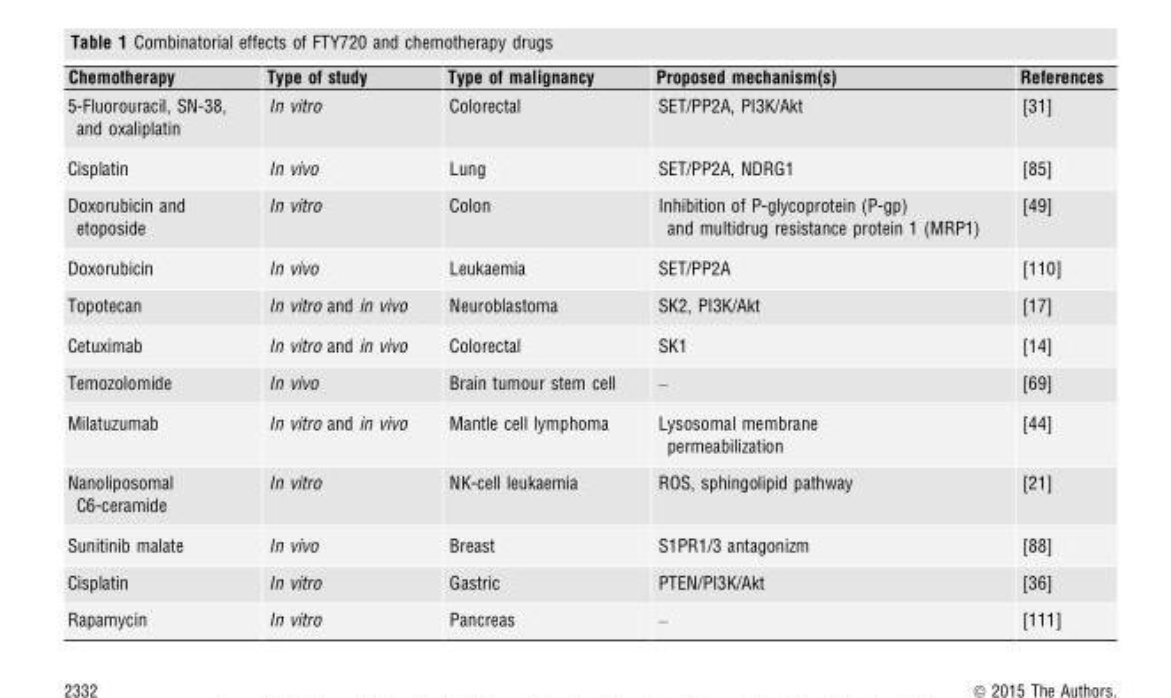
<table><thead><tr><td>Chemotherapy</td><td>Type of study</td><td>Type of malignancy</td><td>Proposed mechanism(s)</td><td>References</td></tr></thead><tbody><tr><td>5-Fluorouracil, SN-38, and oxaliplatin</td><td>In vitro</td><td>Colorectal</td><td>SET/PP2A, PI3K/Akt</td><td>[31]</td></tr><tr><td>Cisplatin</td><td>In vivo</td><td>Lung</td><td>SET/PP2A, NDRG1</td><td>[85]</td></tr><tr><td>Doxorubicin and etoposide</td><td>In vitro</td><td>Colon</td><td>Inhibition of P-glycoprotein (P-gp) and multidrug resistance protein 1 (MRP1)</td><td>[49]</td></tr><tr><td>Doxorubicin</td><td>In vivo</td><td>Leukaemia</td><td>SET/PP2A</td><td>[110]</td></tr><tr><td>Topotecan</td><td>In vitro and in vivo</td><td>Neuroblastoma</td><td>SK2, PI3K/Akt</td><td>[17]</td></tr><tr><td>Cetuximab</td><td>In vitro and in vivo</td><td>Colorectal</td><td>SK1</td><td>[14]</td></tr><tr><td>Temozolomide</td><td>In vivo</td><td>Brain tumour stem cell</td><td>–</td><td>[69]</td></tr><tr><td>Milatuzumab</td><td>In vitro and in vivo</td><td>Mantle cell lymphoma</td><td>Lysosomal membrane permeabilization</td><td>[44]</td></tr><tr><td>Nanoliposomal C6-ceramide</td><td>In vitro</td><td>NK-cell leukaemia</td><td>ROS, sphingolipid pathway</td><td>[21]</td></tr><tr><td>Sunitinib malate</td><td>In vivo</td><td>Breast</td><td>S1PR1/3 antagonizm</td><td>[88]</td></tr><tr><td>Cisplatin</td><td>In vitro</td><td>Gastric</td><td>PTEN/PI3K/Akt</td><td>[36]</td></tr><tr><td>Rapamycin</td><td>In vitro</td><td>Pancreas</td><td>–</td><td>[111]</td></tr></tbody></table>